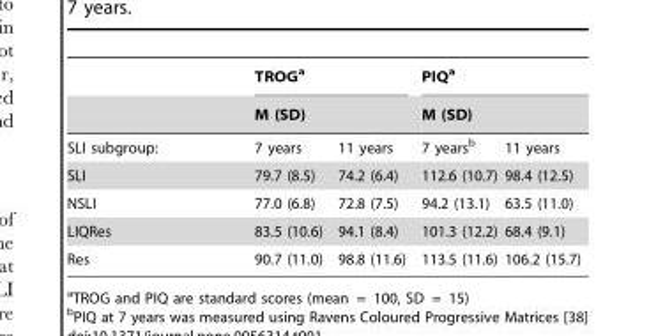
<table><thead><tr><td rowspan="3">SLI subgroup:</td><td rowspan="2" colspan="2">TROG<sup>a</sup> M (SD)</td><td rowspan="2" colspan="2">PIQ<sup>a</sup> M (SD)</td></tr><tr></tr><tr><td>7 years</td><td>11 years</td><td>7 years<sup>b</sup></td><td>11 years</td></tr></thead><tbody><tr><td>SLI</td><td>79.7 (8.5)</td><td>74.2 (6.4)</td><td>112.6 (10.7)</td><td>98.4 (12.5)</td></tr><tr><td>NSLI</td><td>77.0 (6.8)</td><td>72.8 (7.5)</td><td>94.2 (13.1)</td><td>63.5 (11.0)</td></tr><tr><td>LIQRes</td><td>83.5 (10.6)</td><td>94.1 (8.4)</td><td>101.3 (12.2)</td><td>68.4 (9.1)</td></tr><tr><td>Res</td><td>90.7 (11.0)</td><td>98.8 (11.6)</td><td>113.5 (11.6)</td><td>106.2 (15.7)</td></tr></tbody></table>